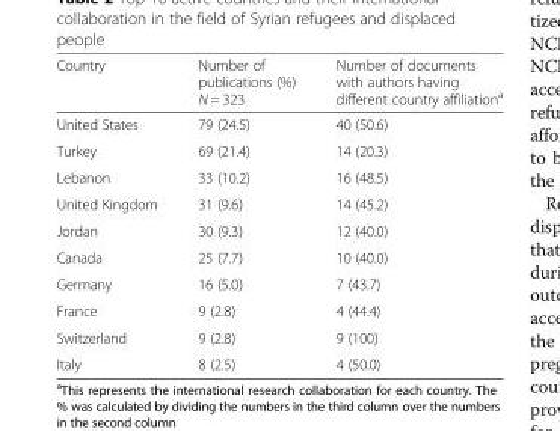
<table><thead><tr><td>Country</td><td>Number of publications (%) N = 323</td><td>Number of documents with authors having different country affiliation<sup>a</sup></td></tr></thead><tbody><tr><td>United States</td><td>79 (24.5)</td><td>40 (50.6)</td></tr><tr><td>Turkey</td><td>69 (21.4)</td><td>14 (20.3)</td></tr><tr><td>Lebanon</td><td>33 (10.2)</td><td>16 (48.5)</td></tr><tr><td>United Kingdom</td><td>31 (9.6)</td><td>14 (45.2)</td></tr><tr><td>Jordan</td><td>30 (9.3)</td><td>12 (40.0)</td></tr><tr><td>Canada</td><td>25 (7.7)</td><td>10 (40.0)</td></tr><tr><td>Germany</td><td>16 (5.0)</td><td>7 (43.7)</td></tr><tr><td>France</td><td>9 (2.8)</td><td>4 (44.4)</td></tr><tr><td>Switzerland</td><td>9 (2.8)</td><td>9 (100)</td></tr><tr><td>Italy</td><td>8 (2.5)</td><td>4 (50.0)</td></tr></tbody></table>